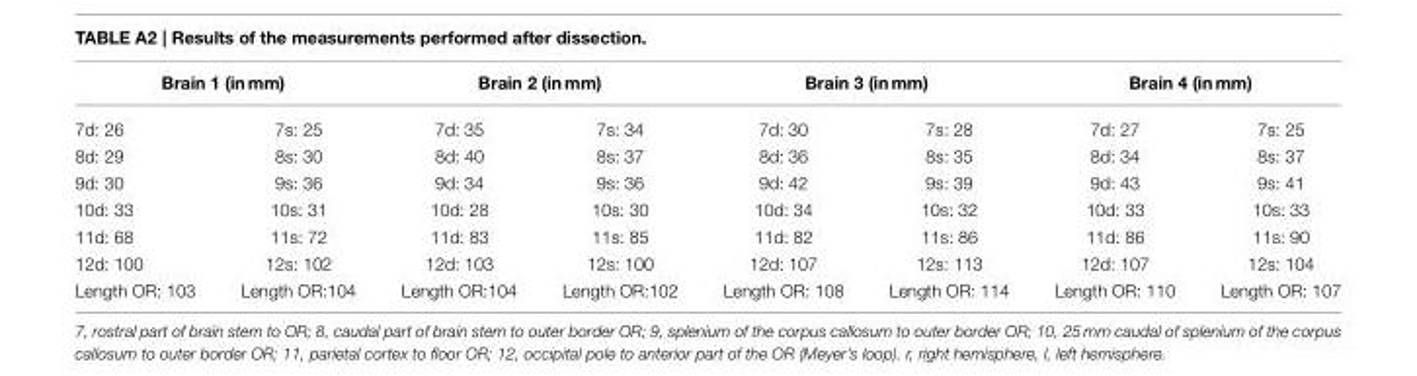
<table><thead><tr><td colspan="2">Brain 1 (in mm)</td><td colspan="2">Brain 2 (in mm)</td><td colspan="2">Brain 3 (in mm)</td><td colspan="2">Brain 4 (in mm)</td></tr><tr><td>7d: 26</td><td>7s: 25</td><td>7d: 35</td><td>7s: 34</td><td>7d: 30</td><td>7s: 28</td><td>7d: 27</td><td>7s: 25</td></tr></thead><tbody><tr><td>8d: 29</td><td>8s: 30</td><td>8d: 40</td><td>8s: 37</td><td>8d: 36</td><td>8s: 35</td><td>8d: 34</td><td>8s: 37</td></tr><tr><td>9d: 30</td><td>9s: 36</td><td>9d: 34</td><td>9s: 36</td><td>9d: 42</td><td>9s: 39</td><td>9d: 43</td><td>9s: 41</td></tr><tr><td>10d: 33</td><td>10s: 31</td><td>10d: 28</td><td>10s: 30</td><td>10d: 34</td><td>10s: 32</td><td>10d: 33</td><td>10s: 33</td></tr><tr><td>11d: 68</td><td>11s: 72</td><td>11d: 83</td><td>11s: 85</td><td>11d: 82</td><td>11s: 86</td><td>11d: 86</td><td>11s: 90</td></tr><tr><td>12d: 100</td><td>12s: 102</td><td>12d: 103</td><td>12s: 100</td><td>12d: 107</td><td>12s: 113</td><td>12d: 107</td><td>12s: 104</td></tr><tr><td>Length OR: 103</td><td>Length OR:104</td><td>Length OR:104</td><td>Length OR:102</td><td>Length OR: 108</td><td>Length OR: 114</td><td>Length OR: 110</td><td>Length OR: 107</td></tr></tbody></table>